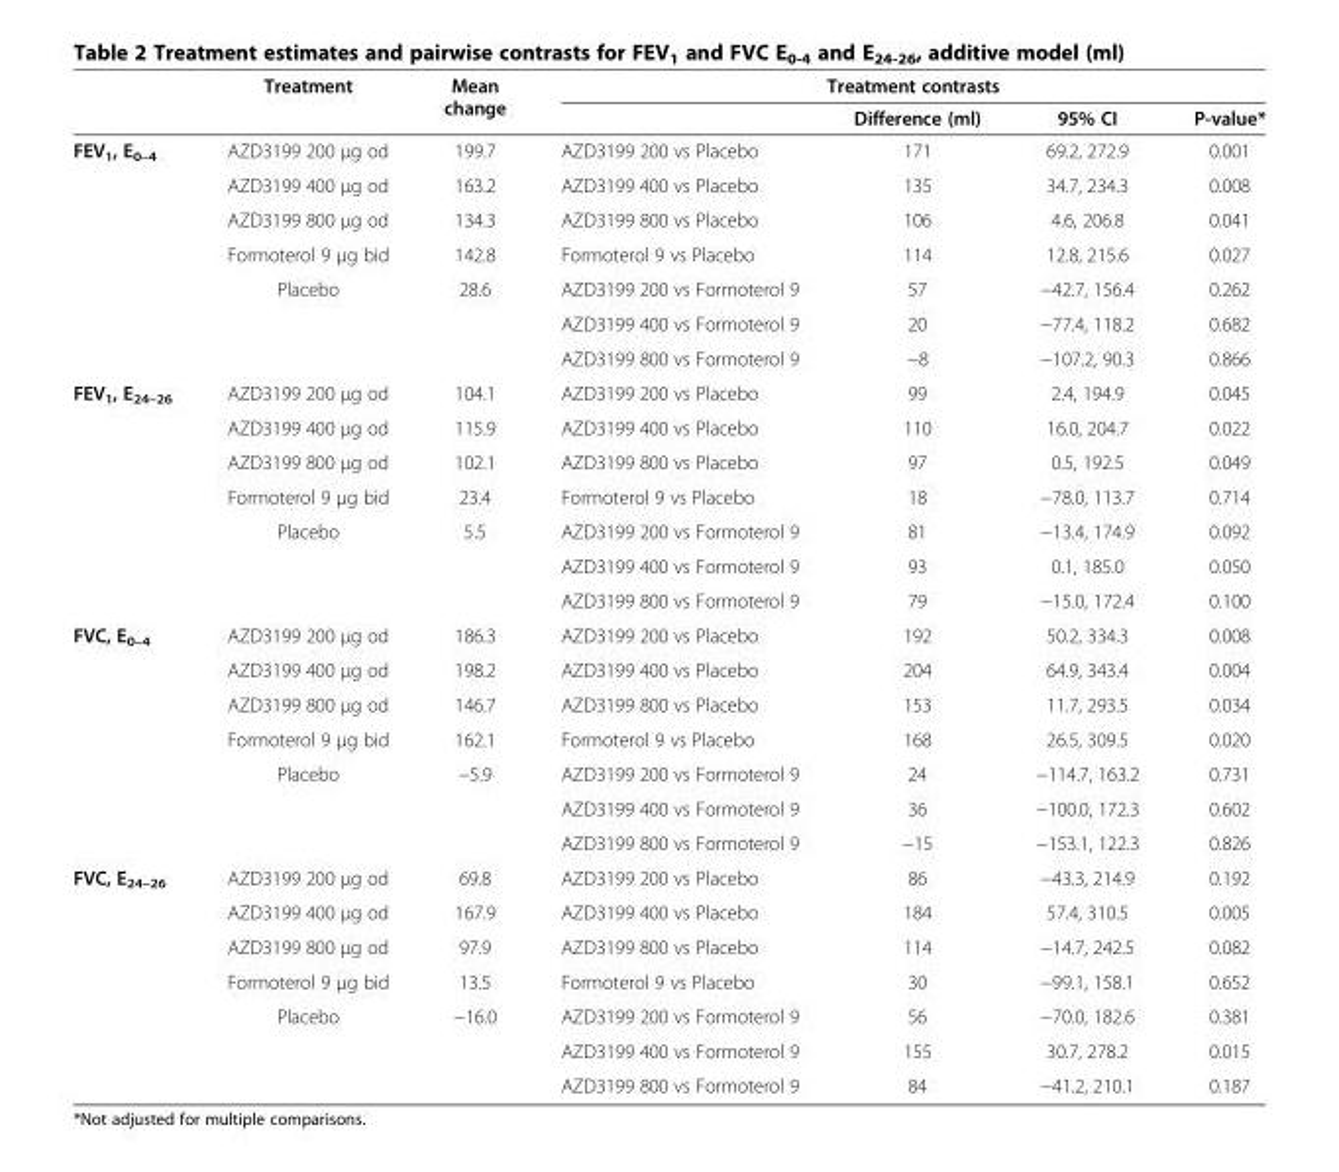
<table><thead><tr><td rowspan="2"></td><td rowspan="2">Treatment</td><td rowspan="2">Mean change</td><td colspan="4">Treatment contrasts</td></tr><tr><td></td><td>Difference (ml)</td><td>95% CI</td><td>P-value*</td></tr></thead><tbody><tr><td rowspan="7">FEV<sub>1</sub>, E<sub>0–4</sub></td><td>AZD3199 200 μg od</td><td>199.7</td><td>AZD3199 200 vs Placebo</td><td>171</td><td>69.2, 272.9</td><td>0.001</td></tr><tr><td>AZD3199 400 μg od</td><td>163.2</td><td>AZD3199 400 vs Placebo</td><td>135</td><td>34.7, 234.3</td><td>0.008</td></tr><tr><td>AZD3199 800 μg od</td><td>134.3</td><td>AZD3199 800 vs Placebo</td><td>106</td><td>4.6, 206.8</td><td>0.041</td></tr><tr><td>Formoterol 9 μg bid</td><td>142.8</td><td>Formoterol 9 vs Placebo</td><td>114</td><td>12.8, 215.6</td><td>0.027</td></tr><tr><td rowspan="3">Placebo</td><td rowspan="3">28.6</td><td>AZD3199 200 vs Formoterol 9</td><td>57</td><td>−42.7, 156.4</td><td>0.262</td></tr><tr><td>AZD3199 400 vs Formoterol 9</td><td>20</td><td>−77.4, 118.2</td><td>0.682</td></tr><tr><td>AZD3199 800 vs Formoterol 9</td><td>−8</td><td>−107.2, 90.3</td><td>0.866</td></tr><tr><td rowspan="7">FEV<sub>1</sub>, E<sub>24–26</sub></td><td>AZD3199 200 μg od</td><td>104.1</td><td>AZD3199 200 vs Placebo</td><td>99</td><td>2.4, 194.9</td><td>0.045</td></tr><tr><td>AZD3199 400 μg od</td><td>115.9</td><td>AZD3199 400 vs Placebo</td><td>110</td><td>16.0, 204.7</td><td>0.022</td></tr><tr><td>AZD3199 800 μg od</td><td>102.1</td><td>AZD3199 800 vs Placebo</td><td>97</td><td>0.5, 192.5</td><td>0.049</td></tr><tr><td>Formoterol 9 μg bid</td><td>23.4</td><td>Formoterol 9 vs Placebo</td><td>18</td><td>−78.0, 113.7</td><td>0.714</td></tr><tr><td rowspan="3">Placebo</td><td rowspan="3">5.5</td><td>AZD3199 200 vs Formoterol 9</td><td>81</td><td>−13.4, 174.9</td><td>0.092</td></tr><tr><td>AZD3199 400 vs Formoterol 9</td><td>93</td><td>0.1, 185.0</td><td>0.050</td></tr><tr><td>AZD3199 800 vs Formoterol 9</td><td>79</td><td>−15.0, 172.4</td><td>0.100</td></tr><tr><td rowspan="7">FVC, E<sub>0–4</sub></td><td>AZD3199 200 μg od</td><td>186.3</td><td>AZD3199 200 vs Placebo</td><td>192</td><td>50.2, 334.3</td><td>0.008</td></tr><tr><td>AZD3199 400 μg od</td><td>198.2</td><td>AZD3199 400 vs Placebo</td><td>204</td><td>64.9, 343.4</td><td>0.004</td></tr><tr><td>AZD3199 800 μg od</td><td>146.7</td><td>AZD3199 800 vs Placebo</td><td>153</td><td>11.7, 293.5</td><td>0.034</td></tr><tr><td>Formoterol 9 μg bid</td><td>162.1</td><td>Formoterol 9 vs Placebo</td><td>168</td><td>26.5, 309.5</td><td>0.020</td></tr><tr><td rowspan="3">Placebo</td><td rowspan="3">−5.9</td><td>AZD3199 200 vs Formoterol 9</td><td>24</td><td>−114.7, 163.2</td><td>0.731</td></tr><tr><td>AZD3199 400 vs Formoterol 9</td><td>36</td><td>−100.0, 172.3</td><td>0.602</td></tr><tr><td>AZD3199 800 vs Formoterol 9</td><td>−15</td><td>−153.1, 122.3</td><td>0.826</td></tr><tr><td rowspan="7">FVC, E<sub>24–26</sub></td><td>AZD3199 200 μg od</td><td>69.8</td><td>AZD3199 200 vs Placebo</td><td>86</td><td>−43.3, 214.9</td><td>0.192</td></tr><tr><td>AZD3199 400 μg od</td><td>167.9</td><td>AZD3199 400 vs Placebo</td><td>184</td><td>57.4, 310.5</td><td>0.005</td></tr><tr><td>AZD3199 800 μg od</td><td>97.9</td><td>AZD3199 800 vs Placebo</td><td>114</td><td>−14.7, 242.5</td><td>0.082</td></tr><tr><td>Formoterol 9 μg bid</td><td>13.5</td><td>Formoterol 9 vs Placebo</td><td>30</td><td>−99.1, 158.1</td><td>0.652</td></tr><tr><td rowspan="2">Placebo</td><td rowspan="2">−16.0</td><td>AZD3199 200 vs Formoterol 9</td><td>56</td><td>−70.0, 182.6</td><td>0.381</td></tr><tr><td>AZD3199 400 vs Formoterol 9</td><td>155</td><td>30.7, 278.2</td><td>0.015</td></tr><tr><td></td><td></td><td>AZD3199 800 vs Formoterol 9</td><td>84</td><td>−41.2, 210.1</td><td>0.187</td></tr></tbody></table>